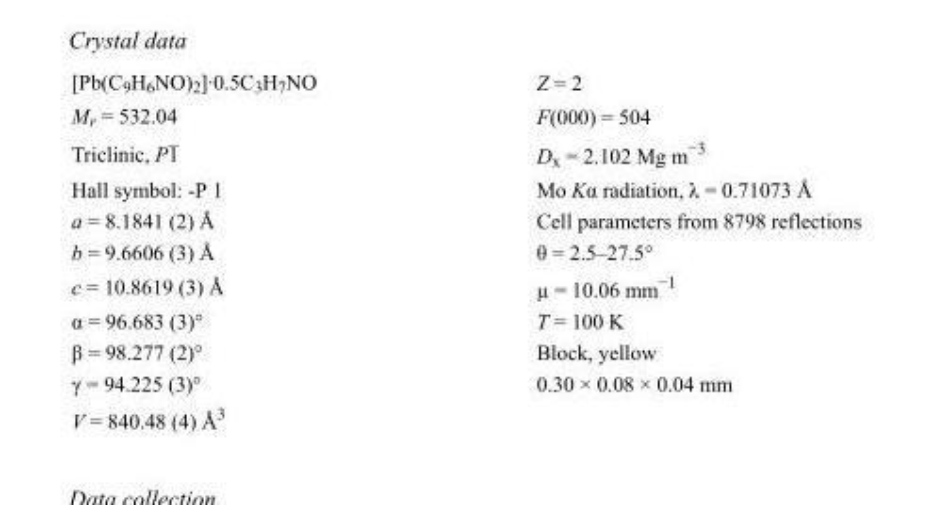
<table><tbody><tr><td>[Pb(C<sub>9</sub>H<sub>6</sub>NO)<sub>2</sub>]·0.5C<sub>3</sub>H<sub>7</sub>NO</td><td>Z = 2</td></tr><tr><td>M<sub>r</sub> = 532.04</td><td>F(000) = 504</td></tr><tr><td>Triclinic, P1</td><td>D<sub>x</sub> = 2.102 Mg m<sup>−3</sup></td></tr><tr><td>Hall symbol: -P 1</td><td>Mo Kα radiation, λ = 0.71073 Å</td></tr><tr><td>a = 8.1841 (2) Å</td><td>Cell parameters from 8798 reflections</td></tr><tr><td>b = 9.6606 (3) Å</td><td>θ = 2.5–27.5°</td></tr><tr><td>c = 10.8619 (3) Å</td><td>µ = 10.06 mm<sup>−1</sup></td></tr><tr><td>α = 96.683 (3)°</td><td>T = 100 K</td></tr><tr><td>β = 98.277 (2)°</td><td>Block, yellow</td></tr><tr><td>γ = 94.225 (3)°</td><td>0.30 × 0.08 × 0.04 mm</td></tr><tr><td>V = 840.48 (4) Å<sup>3</sup></td><td></td></tr></tbody></table>